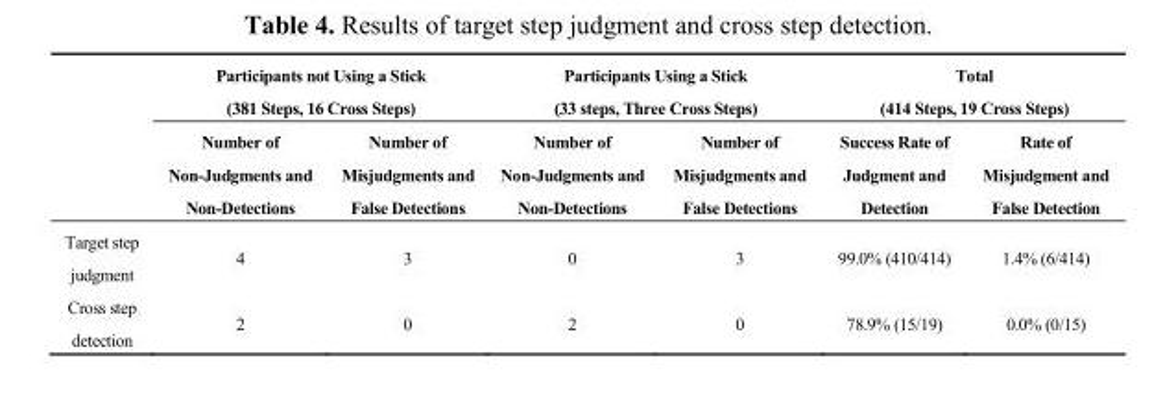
<table><thead><tr><td rowspan="2"></td><td colspan="2">Participants not Using a Stick (381 Steps, 16 Cross Steps)</td><td colspan="2">Participants Using a Stick (33 steps, Three Cross Steps)</td><td colspan="2">Total (414 Steps, 19 Cross Steps)</td></tr><tr><td>Number of Non-Judgments and Non-Detections</td><td>Number of Misjudgments and False Detections</td><td>Number of Non-Judgments and Non-Detections</td><td>Number of Misjudgments and False Detections</td><td>Success Rate of Judgment and Detection</td><td>Rate of Misjudgment and False Detection</td></tr></thead><tbody><tr><td>Target step judgment</td><td>4</td><td>3</td><td>0</td><td>3</td><td>99.0% (410/414)</td><td>1.4% (6/414)</td></tr><tr><td>Cross step detection</td><td>2</td><td>0</td><td>2</td><td>0</td><td>78.9% (15/19)</td><td>0.0% (0/15)</td></tr></tbody></table>